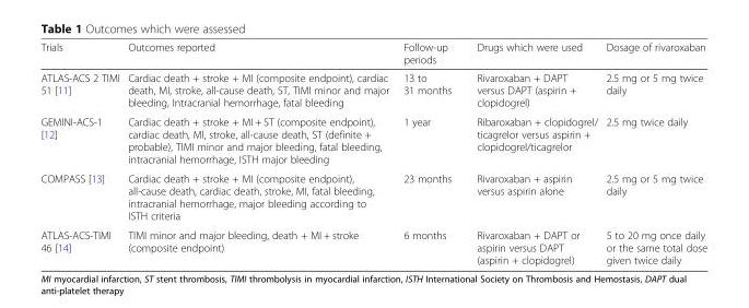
<table><thead><tr><td>Trials</td><td>Outcomes reported</td><td>Follow-up periods</td><td>Drugs which were used</td><td>Dosage of rivaroxaban</td></tr></thead><tbody><tr><td>ATLAS-ACS 2 TIMI 51 [11]</td><td>Cardiac death + stroke + MI (composite endpoint), cardiac death, MI, stroke, all-cause death, ST, TIMI minor and major bleeding, Intracranial hemorrhage, fatal bleeding</td><td>13 to 31 months</td><td>Rivaroxaban + DAPT versus DAPT (aspirin + clopidogrel)</td><td>2.5 mg or 5 mg twice daily</td></tr><tr><td>GEMINI-ACS-1 [12]</td><td>Cardiac death + stroke + MI + ST (composite endpoint), cardiac death, MI, stroke, all-cause death, ST (definite + probable), TIMI minor and major bleeding, fatal bleeding, intracranial hemorrhage, ISTH major bleeding</td><td>1 year</td><td>Ribaroxaban + clopidogrel/ ticagrelor versus aspirin + clopidogrel/ticagrelor</td><td>2.5 mg twice daily</td></tr><tr><td>COMPASS [13]</td><td>Cardiac death + stroke + MI (composite endpoint), all-cause death, cardiac death, stroke, MI, fatal bleeding, intracranial hemorrhage, major bleeding according to ISTH criteria</td><td>23 months</td><td>Rivaroxaban + aspirin versus aspirin alone</td><td>2.5 mg or 5 mg twice daily</td></tr><tr><td>ATLAS-ACS-TIMI 46 [14]</td><td>TIMI minor and major bleeding, death + MI + stroke (composite endpoint)</td><td>6 months</td><td>Rivaroxaban + DAPT or aspirin versus DAPT (aspirin + clopidogrel)</td><td>5 to 20 mg once daily or the same total dose given twice daily</td></tr></tbody></table>